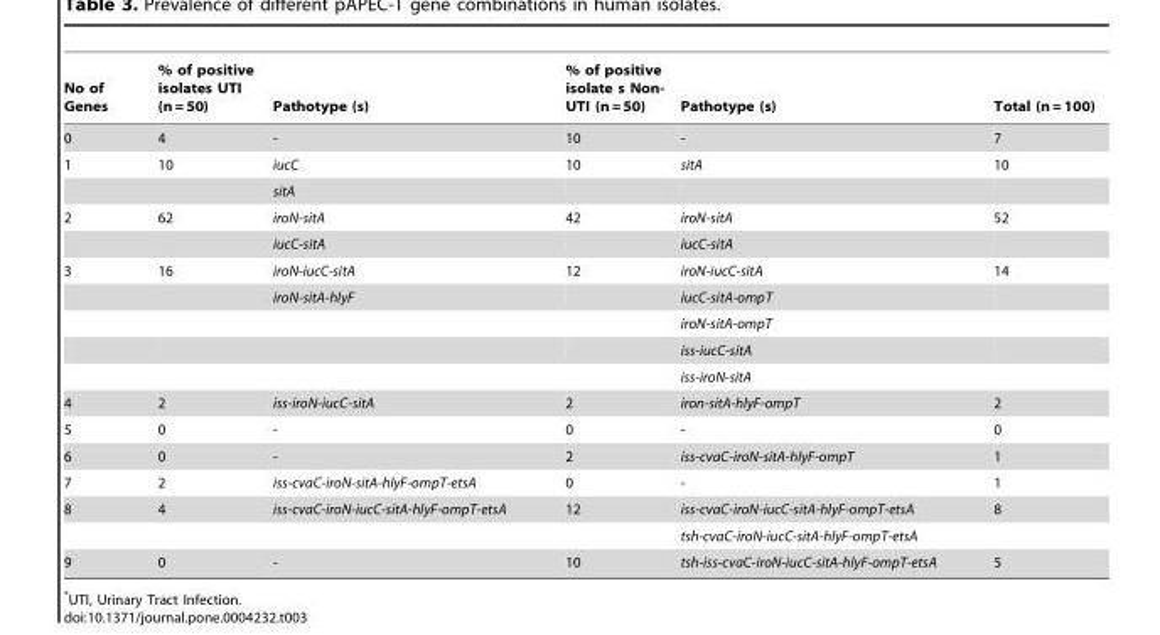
<table><thead><tr><td>No of Genes</td><td>% of positive isolates UTI (n = 50)</td><td>Pathotype (s)</td><td>% of positive isolate s Non- UTI (n = 50)</td><td>Pathotype (s)</td><td>Total (n = 100)</td></tr></thead><tbody><tr><td>0</td><td>4</td><td>-</td><td>10</td><td>-</td><td>7</td></tr><tr><td rowspan="2">1</td><td>10</td><td>iucC</td><td>10</td><td>sitA</td><td>10</td></tr><tr><td></td><td>sitA</td><td></td><td></td><td></td></tr><tr><td rowspan="2">2</td><td>62</td><td>iroN-sitA</td><td>42</td><td>iroN-sitA</td><td>52</td></tr><tr><td></td><td>iucC-sitA</td><td></td><td>iucC-sitA</td><td></td></tr><tr><td rowspan="5">3</td><td>16</td><td>iroN-iucC-sitA</td><td>12</td><td>iroN-iucC-sitA</td><td>14</td></tr><tr><td></td><td>iroN-sitA-hlyF</td><td></td><td>iucC-sitA-ompT</td><td></td></tr><tr><td></td><td></td><td></td><td>iroN-sitA-ompT</td><td></td></tr><tr><td></td><td></td><td></td><td>iss-iucC-sitA</td><td></td></tr><tr><td></td><td></td><td></td><td>iss-iroN-sitA</td><td></td></tr><tr><td>4</td><td>2</td><td>iss-iroN-iucC-sitA</td><td>2</td><td>iron-sitA-hlyF-ompT</td><td>2</td></tr><tr><td>5</td><td>0</td><td>-</td><td>0</td><td>-</td><td>0</td></tr><tr><td>6</td><td>0</td><td>-</td><td>2</td><td>iss-cvaC-iroN-sitA-hlyF-ompT</td><td>1</td></tr><tr><td>7</td><td>2</td><td>iss-cvaC-iroN-sitA-hlyF-ompT-etsA</td><td>0</td><td>-</td><td>1</td></tr><tr><td rowspan="2">8</td><td>4</td><td>iss-cvaC-iroN-iucC-sitA-hlyF-ompT-etsA</td><td>12</td><td>iss-cvaC-iroN-iucC-sitA-hlyF-ompT-etsA</td><td>8</td></tr><tr><td></td><td></td><td></td><td>tsh-cvaC-iroN-iucC-sitA-hlyF-ompT-etsA</td><td></td></tr><tr><td>9</td><td>0</td><td>-</td><td>10</td><td>tsh-iss-cvaC-iroN-iucC-sitA-hlyF-ompT-etsA</td><td>5</td></tr></tbody></table>